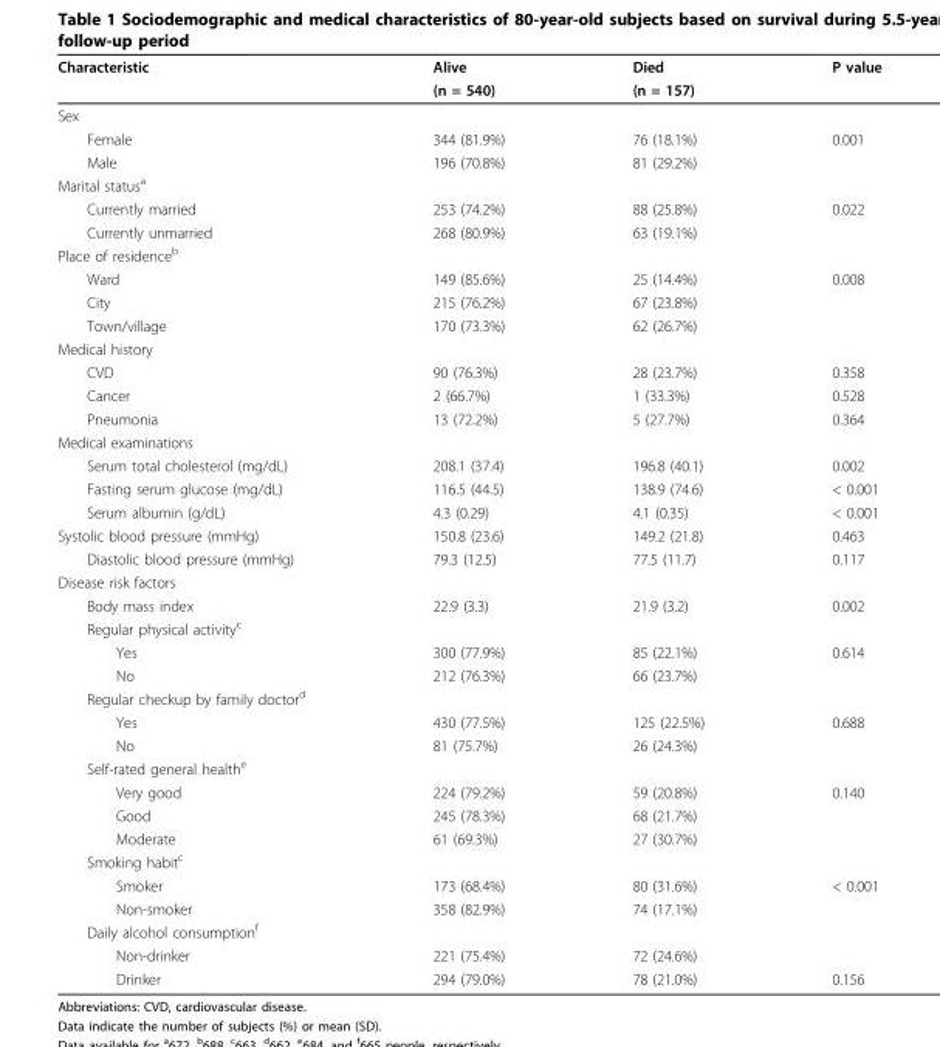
<table><thead><tr><td rowspan="2">Characteristic</td><td rowspan="2">Alive (n = 540)</td><td rowspan="2">Died (n = 157)</td><td rowspan="2">P value</td></tr><tr></tr></thead><tbody><tr><td colspan="4">Sex</td></tr><tr><td>Female</td><td>344 (81.9%)</td><td>76 (18.1%)</td><td>0.001</td></tr><tr><td>Male</td><td>196 (70.8%)</td><td>81 (29.2%)</td><td></td></tr><tr><td colspan="4">Marital status<sup>a</sup></td></tr><tr><td>Currently married</td><td>253 (74.2%)</td><td>88 (25.8%)</td><td>0.022</td></tr><tr><td>Currently unmarried</td><td>268 (80.9%)</td><td>63 (19.1%)</td><td></td></tr><tr><td colspan="4">Place of residence<sup>b</sup></td></tr><tr><td>Ward</td><td>149 (85.6%)</td><td>25 (14.4%)</td><td>0.008</td></tr><tr><td>City</td><td>215 (76.2%)</td><td>67 (23.8%)</td><td></td></tr><tr><td>Town/village</td><td>170 (73.3%)</td><td>62 (26.7%)</td><td></td></tr><tr><td colspan="4">Medical history</td></tr><tr><td>CVD</td><td>90 (76.3%)</td><td>28 (23.7%)</td><td>0.358</td></tr><tr><td>Cancer</td><td>2 (66.7%)</td><td>1 (33.3%)</td><td>0.528</td></tr><tr><td>Pneumonia</td><td>13 (72.2%)</td><td>5 (27.7%)</td><td>0.364</td></tr><tr><td colspan="4">Medical examinations</td></tr><tr><td>Serum total cholesterol (mg/dL)</td><td>208.1 (37.4)</td><td>196.8 (40.1)</td><td>0.002</td></tr><tr><td>Fasting serum glucose (mg/dL)</td><td>116.5 (44.5)</td><td>138.9 (74.6)</td><td>&lt; 0.001</td></tr><tr><td>Serum albumin (g/dL)</td><td>4.3 (0.29)</td><td>4.1 (0.35)</td><td>&lt; 0.001</td></tr><tr><td>Systolic blood pressure (mmHg)</td><td>150.8 (23.6)</td><td>149.2 (21.8)</td><td>0.463</td></tr><tr><td>Diastolic blood pressure (mmHg)</td><td>79.3 (12.5)</td><td>77.5 (11.7)</td><td>0.117</td></tr><tr><td colspan="4">Disease risk factors</td></tr><tr><td>Body mass index</td><td>22.9 (3.3)</td><td>21.9 (3.2)</td><td>0.002</td></tr><tr><td colspan="4">Regular physical activity<sup>c</sup></td></tr><tr><td>Yes</td><td>300 (77.9%)</td><td>85 (22.1%)</td><td>0.614</td></tr><tr><td>No</td><td>212 (76.3%)</td><td>66 (23.7%)</td><td></td></tr><tr><td colspan="4">Regular checkup by family doctor<sup>d</sup></td></tr><tr><td>Yes</td><td>430 (77.5%)</td><td>125 (22.5%)</td><td>0.688</td></tr><tr><td>No</td><td>81 (75.7%)</td><td>26 (24.3%)</td><td></td></tr><tr><td colspan="4">Self-rated general health<sup>e</sup></td></tr><tr><td>Very good</td><td>224 (79.2%)</td><td>59 (20.8%)</td><td>0.140</td></tr><tr><td>Good</td><td>245 (78.3%)</td><td>68 (21.7%)</td><td></td></tr><tr><td>Moderate</td><td>61 (69.3%)</td><td>27 (30.7%)</td><td></td></tr><tr><td colspan="4">Smoking habit<sup>c</sup></td></tr><tr><td>Smoker</td><td>173 (68.4%)</td><td>80 (31.6%)</td><td>&lt; 0.001</td></tr><tr><td>Non-smoker</td><td>358 (82.9%)</td><td>74 (17.1%)</td><td></td></tr><tr><td colspan="4">Daily alcohol consumption<sup>f</sup></td></tr><tr><td>Non-drinker</td><td>221 (75.4%)</td><td>72 (24.6%)</td><td></td></tr><tr><td>Drinker</td><td>294 (79.0%)</td><td>78 (21.0%)</td><td>0.156</td></tr></tbody></table>